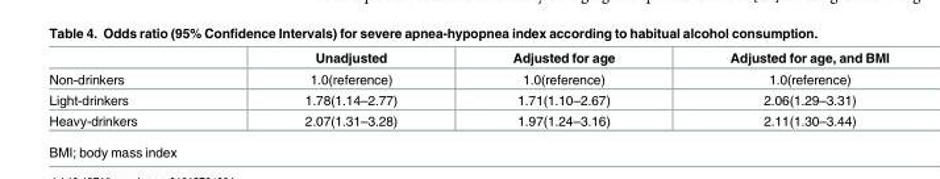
<table><thead><tr><td></td><td>Unadjusted</td><td>Adjusted for age</td><td>Adjusted for age, and BMI</td></tr></thead><tbody><tr><td>Non-drinkers</td><td>1.0(reference)</td><td>1.0(reference)</td><td>1.0(reference)</td></tr><tr><td>Light-drinkers</td><td>1.78(1.14–2.77)</td><td>1.71(1.10–2.67)</td><td>2.06(1.29–3.31)</td></tr><tr><td>Heavy-drinkers</td><td>2.07(1.31–3.28)</td><td>1.97(1.24–3.16)</td><td>2.11(1.30–3.44)</td></tr></tbody></table>